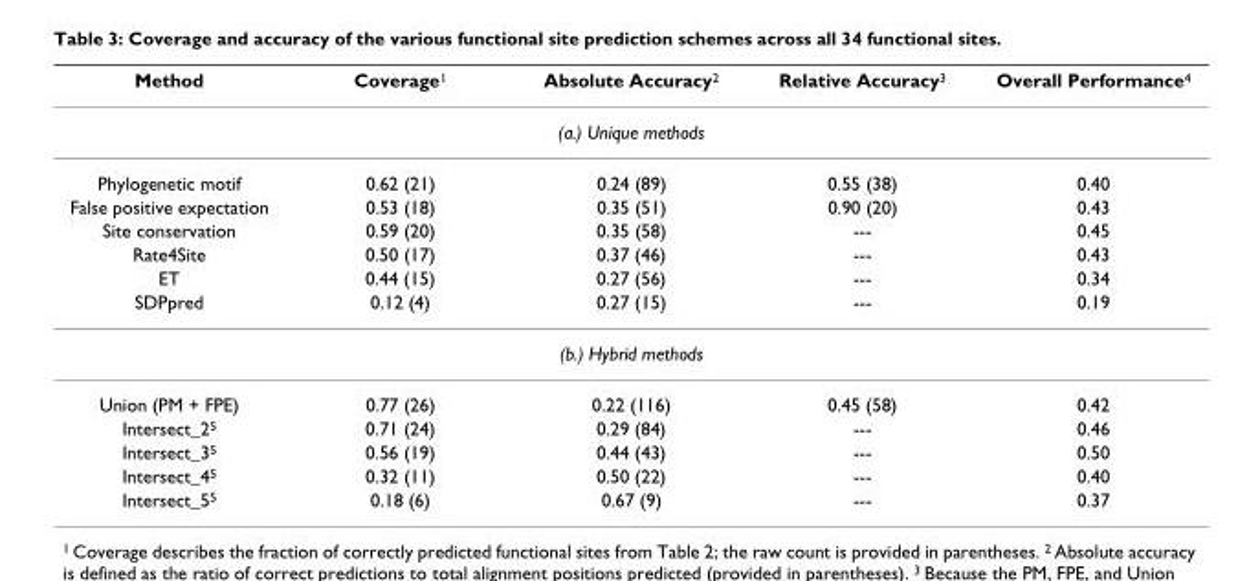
<table><thead><tr><td>Method</td><td>Coverage<sup>1</sup></td><td>Absolute Accuracy<sup>2</sup></td><td>Relative Accuracy<sup>3</sup></td><td>Overall Performance<sup>4</sup></td></tr></thead><tbody><tr><td colspan="5">(a.) Unique methods</td></tr><tr><td>Phylogenetic motif</td><td>0.62 (21)</td><td>0.24 (89)</td><td>0.55 (38)</td><td>0.40</td></tr><tr><td>False positive expectation</td><td>0.53 (18)</td><td>0.35 (51)</td><td>0.90 (20)</td><td>0.43</td></tr><tr><td>Site conservation</td><td>0.59 (20)</td><td>0.35 (58)</td><td>---</td><td>0.45</td></tr><tr><td>Rate4Site</td><td>0.50 (17)</td><td>0.37 (46)</td><td>---</td><td>0.43</td></tr><tr><td>ET</td><td>0.44 (15)</td><td>0.27 (56)</td><td>---</td><td>0.34</td></tr><tr><td>SDPpred</td><td>0.12 (4)</td><td>0.27 (15)</td><td>---</td><td>0.19</td></tr><tr><td colspan="5">(b.) Hybrid methods</td></tr><tr><td>Union (PM + FPE)</td><td>0.77 (26)</td><td>0.22 (116)</td><td>0.45 (58)</td><td>0.42</td></tr><tr><td>Intersect_2<sup>5</sup></td><td>0.71 (24)</td><td>0.29 (84)</td><td>---</td><td>0.46</td></tr><tr><td>Intersect_3<sup>5</sup></td><td>0.56 (19)</td><td>0.44 (43)</td><td>---</td><td>0.50</td></tr><tr><td>Intersect_4<sup>5</sup></td><td>0.32 (11)</td><td>0.50 (22)</td><td>---</td><td>0.40</td></tr><tr><td>Intersect_5<sup>5</sup></td><td>0.18 (6)</td><td>0.67 (9)</td><td>---</td><td>0.37</td></tr></tbody></table>